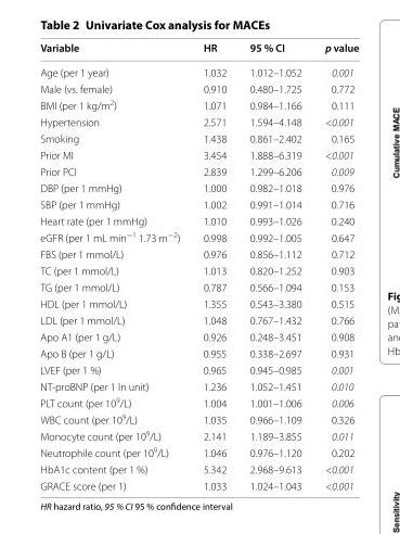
<table><thead><tr><td>Variable</td><td>HR</td><td>95 % CI</td><td>p value</td></tr></thead><tbody><tr><td>Age (per 1 year)</td><td>1.032</td><td>1.012–1.052</td><td>0.001</td></tr><tr><td>Male (vs. female)</td><td>0.910</td><td>0.480–1.725</td><td>0.772</td></tr><tr><td>BMI (per 1 kg/m<sup>2</sup>)</td><td>1.071</td><td>0.984–1.166</td><td>0.111</td></tr><tr><td>Hypertension</td><td>2.571</td><td>1.594–4.148</td><td>&lt;0.001</td></tr><tr><td>Smoking</td><td>1.438</td><td>0.861–2.402</td><td>0.165</td></tr><tr><td>Prior MI</td><td>3.454</td><td>1.888–6.319</td><td>&lt;0.001</td></tr><tr><td>Prior PCI</td><td>2.839</td><td>1.299–6.206</td><td>0.009</td></tr><tr><td>DBP (per 1 mmHg)</td><td>1.000</td><td>0.982–1.018</td><td>0.976</td></tr><tr><td>SBP (per 1 mmHg)</td><td>1.002</td><td>0.991–1.014</td><td>0.716</td></tr><tr><td>Heart rate (per 1 mmHg)</td><td>1.010</td><td>0.993–1.026</td><td>0.240</td></tr><tr><td>eGFR (per 1 mL min<sup>−1</sup> 1.73 m<sup>−2</sup>)</td><td>0.998</td><td>0.992–1.005</td><td>0.647</td></tr><tr><td>FBS (per 1 mmol/L)</td><td>0.976</td><td>0.856–1.112</td><td>0.712</td></tr><tr><td>TC (per 1 mmol/L)</td><td>1.013</td><td>0.820–1.252</td><td>0.903</td></tr><tr><td>TG (per 1 mmol/L)</td><td>0.787</td><td>0.566–1.094</td><td>0.153</td></tr><tr><td>HDL (per 1 mmol/L)</td><td>1.355</td><td>0.543–3.380</td><td>0.515</td></tr><tr><td>LDL (per 1 mmol/L)</td><td>1.048</td><td>0.767–1.432</td><td>0.766</td></tr><tr><td>Apo A1 (per 1 g/L)</td><td>0.926</td><td>0.248–3.451</td><td>0.908</td></tr><tr><td>Apo B (per 1 g/L)</td><td>0.955</td><td>0.338–2.697</td><td>0.931</td></tr><tr><td>LVEF (per 1 %)</td><td>0.965</td><td>0.945–0.985</td><td>0.001</td></tr><tr><td>NT‑proBNP (per 1 ln unit)</td><td>1.236</td><td>1.052–1.451</td><td>0.010</td></tr><tr><td>PLT count (per 10<sup>9</sup>/L)</td><td>1.004</td><td>1.001–1.006</td><td>0.006</td></tr><tr><td>WBC count (per 10<sup>9</sup>/L)</td><td>1.035</td><td>0.966–1.109</td><td>0.326</td></tr><tr><td>Monocyte count (per 10<sup>9</sup>/L)</td><td>2.141</td><td>1.189–3.855</td><td>0.011</td></tr><tr><td>Neutrophile count (per 10<sup>9</sup>/L)</td><td>1.046</td><td>0.976–1.120</td><td>0.202</td></tr><tr><td>HbA1c content (per 1 %)</td><td>5.342</td><td>2.968–9.613</td><td>&lt;0.001</td></tr><tr><td>GRACE score (per 1)</td><td>1.033</td><td>1.024–1.043</td><td>&lt;0.001</td></tr></tbody></table>